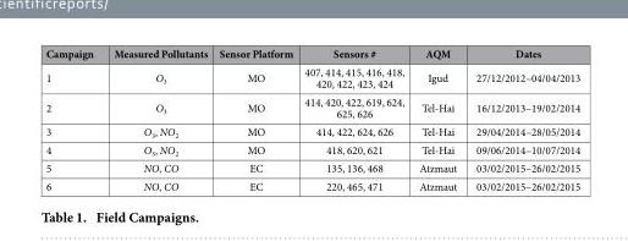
<table><thead><tr><td>Campaign</td><td>Measured Pollutants</td><td>Sensor Platform</td><td>Sensors #</td><td>AQM</td><td>Dates</td></tr></thead><tbody><tr><td>1</td><td>O<sub>3</sub></td><td>MO</td><td>407, 414, 415, 416, 418, 420, 422, 423, 424</td><td>Igud</td><td>27/12/2012–04/04/2013</td></tr><tr><td>2</td><td>O<sub>3</sub></td><td>MO</td><td>414, 420, 422, 619, 624, 625, 626</td><td>Tel-Hai</td><td>16/12/2013–19/02/2014</td></tr><tr><td>3</td><td>O<sub>3</sub>, NO<sub>2</sub></td><td>MO</td><td>414, 422, 624, 626</td><td>Tel-Hai</td><td>29/04/2014–28/05/2014</td></tr><tr><td>4</td><td>O<sub>3</sub>, NO<sub>2</sub></td><td>MO</td><td>418, 620, 621</td><td>Tel-Hai</td><td>09/06/2014–10/07/2014</td></tr><tr><td>5</td><td>NO, CO</td><td>EC</td><td>135, 136, 468</td><td>Atzmaut</td><td>03/02/2015–26/02/2015</td></tr><tr><td>6</td><td>NO, CO</td><td>EC</td><td>220, 465, 471</td><td>Atzmaut</td><td>03/02/2015–26/02/2015</td></tr></tbody></table>